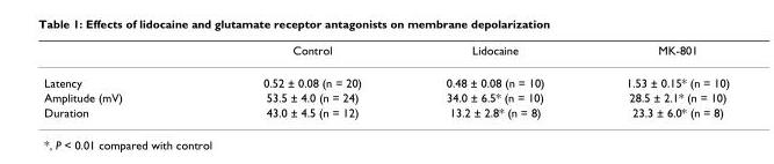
<table><thead><tr><td></td><td>Control</td><td>Lidocaine</td><td>MK-801</td></tr></thead><tbody><tr><td>Latency</td><td>0.52 ± 0.08 (n = 20)</td><td>0.48 ± 0.08 (n = 10)</td><td>1.53 ± 0.15* (n = 10)</td></tr><tr><td>Amplitude (mV)</td><td>53.5 ± 4.0 (n = 24)</td><td>34.0 ± 6.5* (n = 10)</td><td>28.5 ± 2.1* (n = 10)</td></tr><tr><td>Duration</td><td>43.0 ± 4.5 (n = 12)</td><td>13.2 ± 2.8* (n = 8)</td><td>23.3 ± 6.0* (n = 8)</td></tr></tbody></table>